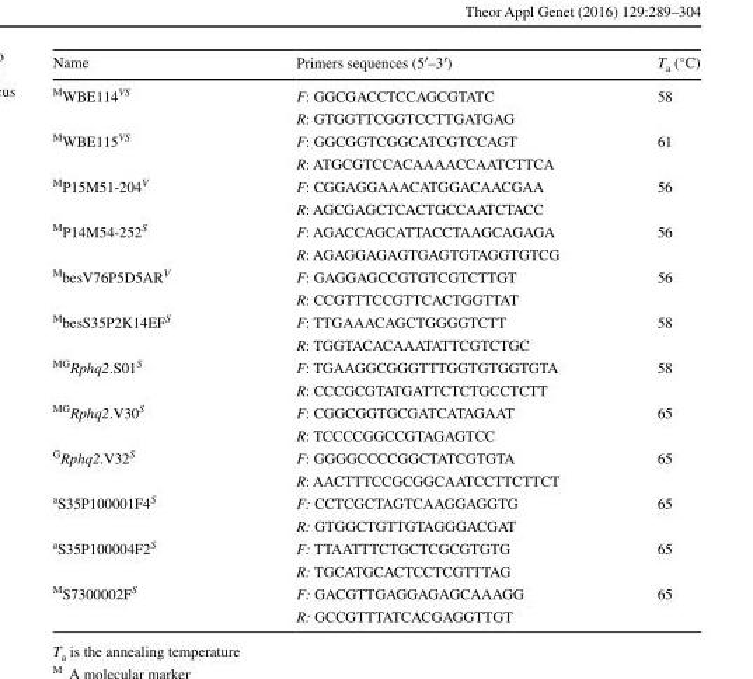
<table><thead><tr><td>Name</td><td>Primers sequences (5′–3′)</td><td>T<sub>a</sub> (°C)</td></tr></thead><tbody><tr><td rowspan="2"><sup>M</sup>WBE114<sup>VS</sup></td><td>F: GGCGACCTCCAGCGTATC</td><td rowspan="2">58</td></tr><tr><td>R: GTGGTTCGGTCCTTGATGAG</td></tr><tr><td rowspan="2"><sup>M</sup>WBE115<sup>VS</sup></td><td>F: GGCGGTCGGCATCGTCCAGT</td><td rowspan="2">61</td></tr><tr><td>R: ATGCGTCCACAAAACCAATCTTCA</td></tr><tr><td rowspan="2"><sup>M</sup>P15M51-204<sup>V</sup></td><td>F: CGGAGGAAACATGGACAACGAA</td><td rowspan="2">56</td></tr><tr><td>R: AGCGAGCTCACTGCCAATCTACC</td></tr><tr><td rowspan="2"><sup>M</sup>P14M54-252<sup>S</sup></td><td>F: AGACCAGCATTACCTAAGCAGAGA</td><td rowspan="2">56</td></tr><tr><td>R: AGAGGAGAGTGAGTGTAGGTGTCG</td></tr><tr><td rowspan="2"><sup>M</sup>besV76P5D5AR<sup>V</sup></td><td>F: GAGGAGCCGTGTCGTCTTGT</td><td rowspan="2">56</td></tr><tr><td>R: CCGTTTCCGTTCACTGGTTAT</td></tr><tr><td rowspan="2"><sup>M</sup>besS35P2K14EF<sup>S</sup></td><td>F: TTGAAACAGCTGGGGTCTT</td><td rowspan="2">58</td></tr><tr><td>R: TGGTACACAAATATTCGTCTGC</td></tr><tr><td rowspan="2"><sup>MG</sup>Rphq2.S01<sup>S</sup></td><td>F: TGAAGGCGGGTTTGGTGTGGTGTA</td><td rowspan="2">58</td></tr><tr><td>R: CCCGCGTATGATTCTCTGCCTCTT</td></tr><tr><td rowspan="2"><sup>MG</sup>Rphq2.V30<sup>S</sup></td><td>F: CGGCGGTGCGATCATAGAAT</td><td rowspan="2">65</td></tr><tr><td>R: TCCCCGGCCGTAGAGTCC</td></tr><tr><td rowspan="2"><sup>G</sup>Rphq2.V32<sup>S</sup></td><td>F: GGGGCCCCGGCTATCGTGTA</td><td rowspan="2">65</td></tr><tr><td>R: AACTTTCCGCGGCAATCCTTCTTCT</td></tr><tr><td rowspan="2"><sup>a</sup>S35P100001F4<sup>S</sup></td><td>F: CCTCGCTAGTCAAGGAGGTG</td><td rowspan="2">65</td></tr><tr><td>R: GTGGCTGTTGTAGGGACGAT</td></tr><tr><td rowspan="2"><sup>a</sup>S35P100004F2<sup>S</sup></td><td>F: TTAATTTCTGCTCGCGTGTG</td><td rowspan="2">65</td></tr><tr><td>R: TGCATGCACTCCTCGTTTAG</td></tr><tr><td rowspan="2"><sup>M</sup>S7300002F<sup>S</sup></td><td>F: GACGTTGAGGAGAGCAAAGG</td><td rowspan="2">65</td></tr><tr><td>R: GCCGTTTATCACGAGGTTGT</td></tr></tbody></table>